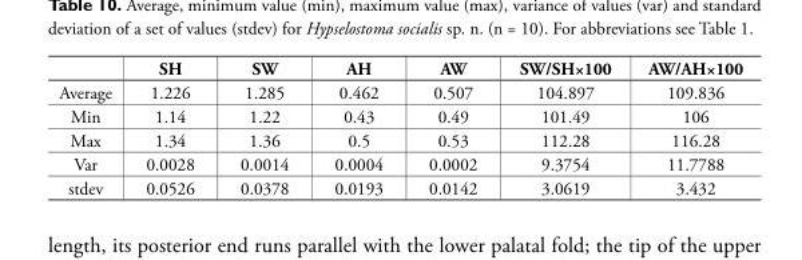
<table><thead><tr><td></td><td>SH</td><td>SW</td><td>AH</td><td>AW</td><td>SW/SH×100</td><td>AW/AH×100</td></tr></thead><tbody><tr><td>Average</td><td>1.226</td><td>1.285</td><td>0.462</td><td>0.507</td><td>104.897</td><td>109.836</td></tr><tr><td>Min</td><td>1.14</td><td>1.22</td><td>0.43</td><td>0.49</td><td>101.49</td><td>106</td></tr><tr><td>Max</td><td>1.34</td><td>1.36</td><td>0.5</td><td>0.53</td><td>112.28</td><td>116.28</td></tr><tr><td>Var</td><td>0.0028</td><td>0.0014</td><td>0.0004</td><td>0.0002</td><td>9.3754</td><td>11.7788</td></tr><tr><td>stdev</td><td>0.0526</td><td>0.0378</td><td>0.0193</td><td>0.0142</td><td>3.0619</td><td>3.432</td></tr></tbody></table>